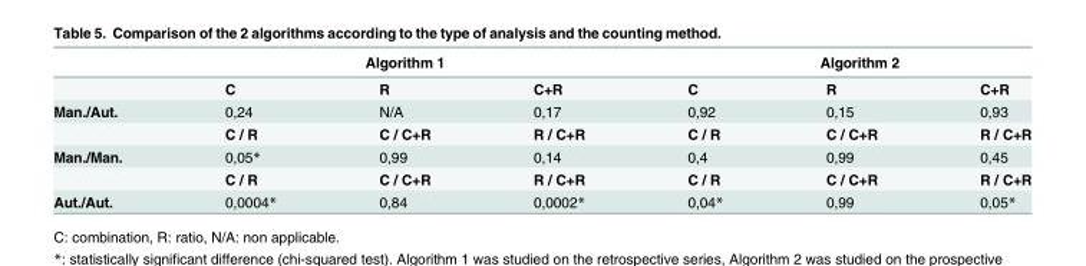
<table><thead><tr><td rowspan="2"></td><td colspan="3">Algorithm 1</td><td colspan="3">Algorithm 2</td></tr><tr><td>C</td><td>R</td><td>C+R</td><td>C</td><td>R</td><td>C+R</td></tr></thead><tbody><tr><td rowspan="2">Man./Aut.</td><td>0,24</td><td>N/A</td><td>0,17</td><td>0,92</td><td>0,15</td><td>0,93</td></tr><tr><td>C / R</td><td>C / C+R</td><td>R / C+R</td><td>C / R</td><td>C / C+R</td><td>R / C+R</td></tr><tr><td rowspan="2">Man./Man.</td><td>0,05*</td><td>0,99</td><td>0,14</td><td>0,4</td><td>0,99</td><td>0,45</td></tr><tr><td>C / R</td><td>C / C+R</td><td>R / C+R</td><td>C / R</td><td>C / C+R</td><td>R / C+R</td></tr><tr><td>Aut./Aut.</td><td>0,0004*</td><td>0,84</td><td>0,0002*</td><td>0,04*</td><td>0,99</td><td>0,05*</td></tr></tbody></table>